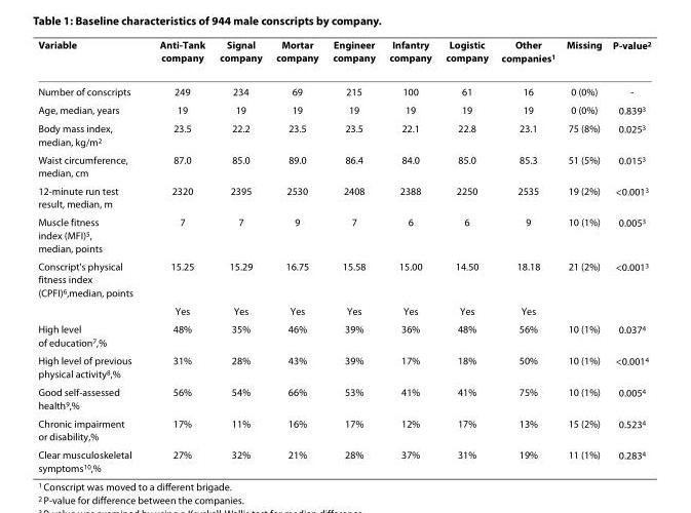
<table><thead><tr><td>Variable</td><td>Anti-Tank company</td><td>Signal company</td><td>Mortar company</td><td>Engineer company</td><td>Infantry company</td><td>Logistic company</td><td>Other companies<sup>1</sup></td><td>Missing</td><td>P-value<sup>2</sup></td></tr></thead><tbody><tr><td>Number of conscripts</td><td>249</td><td>234</td><td>69</td><td>215</td><td>100</td><td>61</td><td>16</td><td>0 (0%)</td><td>-</td></tr><tr><td>Age, median, years</td><td>19</td><td>19</td><td>19</td><td>19</td><td>19</td><td>19</td><td>19</td><td>0 (0%)</td><td>0.839<sup>3</sup></td></tr><tr><td>Body mass index, median, kg/m<sup>2</sup></td><td>23.5</td><td>22.2</td><td>23.5</td><td>23.5</td><td>22.1</td><td>22.8</td><td>23.1</td><td>75 (8%)</td><td>0.025<sup>3</sup></td></tr><tr><td>Waist circumference, median, cm</td><td>87.0</td><td>85.0</td><td>89.0</td><td>86.4</td><td>84.0</td><td>85.0</td><td>85.3</td><td>51 (5%)</td><td>0.015<sup>3</sup></td></tr><tr><td>12-minute run test result, median, m</td><td>2320</td><td>2395</td><td>2530</td><td>2408</td><td>2388</td><td>2250</td><td>2535</td><td>19 (2%)</td><td>&lt;0.001<sup>3</sup></td></tr><tr><td>Muscle fitness index (MFI)<sup>5</sup>, median, points</td><td>7</td><td>7</td><td>9</td><td>7</td><td>6</td><td>6</td><td>9</td><td>10 (1%)</td><td>0.005<sup>3</sup></td></tr><tr><td rowspan="2">Conscript&#x27;s physical fitness index (CPFI)<sup>6</sup>,median, points</td><td>15.25</td><td>15.29</td><td>16.75</td><td>15.58</td><td>15.00</td><td>14.50</td><td>18.18</td><td>21 (2%)</td><td>&lt;0.001<sup>3</sup></td></tr><tr><td>Yes</td><td>Yes</td><td>Yes</td><td>Yes</td><td>Yes</td><td>Yes</td><td>Yes</td><td></td><td></td></tr><tr><td>High level of education<sup>7</sup>,%</td><td>48%</td><td>35%</td><td>46%</td><td>39%</td><td>36%</td><td>48%</td><td>56%</td><td>10 (1%)</td><td>0.037<sup>4</sup></td></tr><tr><td>High level of previous physical activity<sup>8</sup>,%</td><td>31%</td><td>28%</td><td>43%</td><td>39%</td><td>17%</td><td>18%</td><td>50%</td><td>10 (1%)</td><td>&lt;0.001<sup>4</sup></td></tr><tr><td>Good self-assessed health<sup>9</sup>,%</td><td>56%</td><td>54%</td><td>66%</td><td>53%</td><td>41%</td><td>41%</td><td>75%</td><td>10 (1%)</td><td>0.005<sup>4</sup></td></tr><tr><td>Chronic impairment or disability,%</td><td>17%</td><td>11%</td><td>16%</td><td>17%</td><td>12%</td><td>17%</td><td>13%</td><td>15 (2%)</td><td>0.523<sup>4</sup></td></tr><tr><td>Clear musculoskeletal symptoms<sup>10</sup>,%</td><td>27%</td><td>32%</td><td>21%</td><td>28%</td><td>37%</td><td>31%</td><td>19%</td><td>11 (1%)</td><td>0.283<sup>4</sup></td></tr></tbody></table>